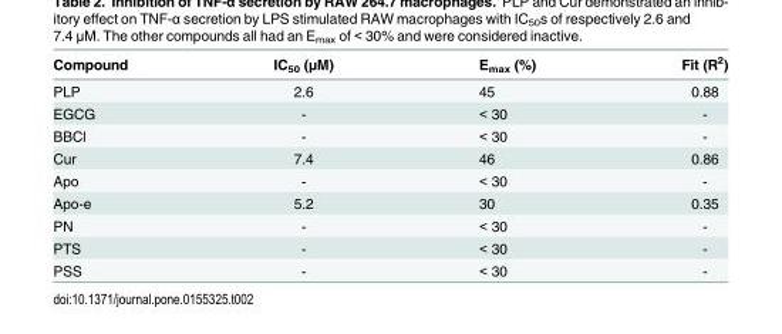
<table><thead><tr><td>Compound</td><td>IC<sub>50</sub> (μM)</td><td>E<sub>max</sub> (%)</td><td>Fit (R<sup>2</sup>)</td></tr></thead><tbody><tr><td>PLP</td><td>2.6</td><td>45</td><td>0.88</td></tr><tr><td>EGCG</td><td>-</td><td>&lt; 30</td><td>-</td></tr><tr><td>BBCl</td><td>-</td><td>&lt; 30</td><td>-</td></tr><tr><td>Cur</td><td>7.4</td><td>46</td><td>0.86</td></tr><tr><td>Apo</td><td>-</td><td>&lt; 30</td><td>-</td></tr><tr><td>Apo-e</td><td>5.2</td><td>30</td><td>0.35</td></tr><tr><td>PN</td><td>-</td><td>&lt; 30</td><td>-</td></tr><tr><td>PTS</td><td>-</td><td>&lt; 30</td><td>-</td></tr><tr><td>PSS</td><td>-</td><td>&lt; 30</td><td>-</td></tr></tbody></table>